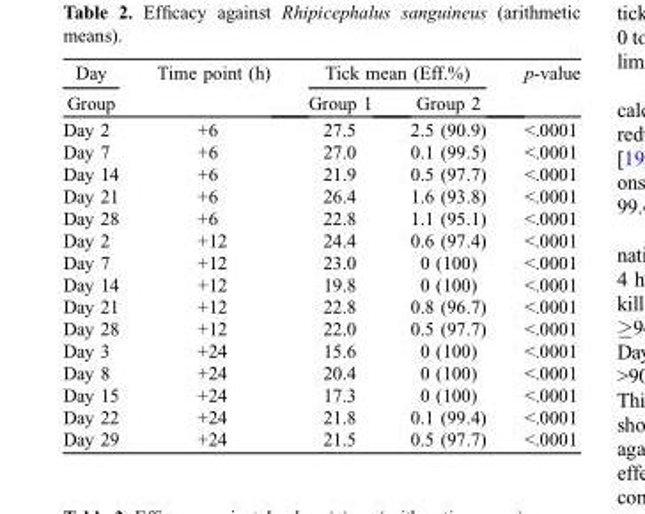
<table><thead><tr><td rowspan="2">Day Group</td><td rowspan="2">Time point (h)</td><td colspan="2">Tick mean (Eff.%)</td><td rowspan="2">p-value</td></tr><tr><td>Group 1</td><td>Group 2</td></tr></thead><tbody><tr><td>Day 2</td><td>+6</td><td>27.5</td><td>2.5 (90.9)</td><td>&lt;.0001</td></tr><tr><td>Day 7</td><td>+6</td><td>27.0</td><td>0.1 (99.5)</td><td>&lt;.0001</td></tr><tr><td>Day 14</td><td>+6</td><td>21.9</td><td>0.5 (97.7)</td><td>&lt;.0001</td></tr><tr><td>Day 21</td><td>+6</td><td>26.4</td><td>1.6 (93.8)</td><td>&lt;.0001</td></tr><tr><td>Day 28</td><td>+6</td><td>22.8</td><td>1.1 (95.1)</td><td>&lt;.0001</td></tr><tr><td>Day 2</td><td>+12</td><td>24.4</td><td>0.6 (97.4)</td><td>&lt;.0001</td></tr><tr><td>Day 7</td><td>+12</td><td>23.0</td><td>0 (100)</td><td>&lt;.0001</td></tr><tr><td>Day 14</td><td>+12</td><td>19.8</td><td>0 (100)</td><td>&lt;.0001</td></tr><tr><td>Day 21</td><td>+12</td><td>22.8</td><td>0.8 (96.7)</td><td>&lt;.0001</td></tr><tr><td>Day 28</td><td>+12</td><td>22.0</td><td>0.5 (97.7)</td><td>&lt;.0001</td></tr><tr><td>Day 3</td><td>+24</td><td>15.6</td><td>0 (100)</td><td>&lt;.0001</td></tr><tr><td>Day 8</td><td>+24</td><td>20.4</td><td>0 (100)</td><td>&lt;.0001</td></tr><tr><td>Day 15</td><td>+24</td><td>17.3</td><td>0 (100)</td><td>&lt;.0001</td></tr><tr><td>Day 22</td><td>+24</td><td>21.8</td><td>0.1 (99.4)</td><td>&lt;.0001</td></tr><tr><td>Day 29</td><td>+24</td><td>21.5</td><td>0.5 (97.7)</td><td>&lt;.0001</td></tr></tbody></table>